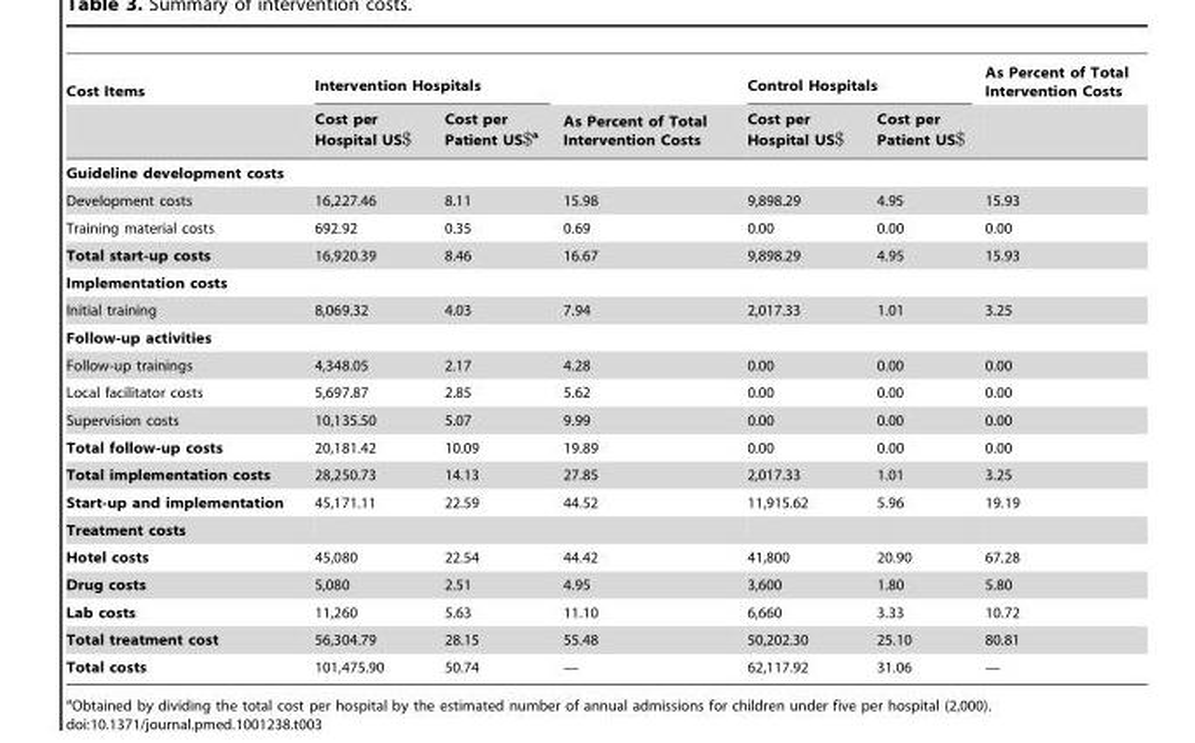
<table><thead><tr><td rowspan="2">Cost Items</td><td colspan="2">Intervention Hospitals</td><td rowspan="2">As Percent of Total Intervention Costs</td><td colspan="2">Control Hospitals</td><td rowspan="2">As Percent of Total Intervention Costs</td></tr><tr><td>Cost per Hospital US$</td><td>Cost per Patient US$<sup>a</sup></td><td>Cost per Hospital US$</td><td>Cost per Patient US$</td></tr></thead><tbody><tr><td colspan="7">Guideline development costs</td></tr><tr><td>Development costs</td><td>16,227.46</td><td>8.11</td><td>15.98</td><td>9,898.29</td><td>4.95</td><td>15.93</td></tr><tr><td>Training material costs</td><td>692.92</td><td>0.35</td><td>0.69</td><td>0.00</td><td>0.00</td><td>0.00</td></tr><tr><td>Total start-up costs</td><td>16,920.39</td><td>8.46</td><td>16.67</td><td>9,898.29</td><td>4.95</td><td>15.93</td></tr><tr><td colspan="7">Implementation costs</td></tr><tr><td>Initial training</td><td>8,069.32</td><td>4.03</td><td>7.94</td><td>2,017.33</td><td>1.01</td><td>3.25</td></tr><tr><td colspan="7">Follow-up activities</td></tr><tr><td>Follow-up trainings</td><td>4,348.05</td><td>2.17</td><td>4.28</td><td>0.00</td><td>0.00</td><td>0.00</td></tr><tr><td>Local facilitator costs</td><td>5,697.87</td><td>2.85</td><td>5.62</td><td>0.00</td><td>0.00</td><td>0.00</td></tr><tr><td>Supervision costs</td><td>10,135.50</td><td>5.07</td><td>9.99</td><td>0.00</td><td>0.00</td><td>0.00</td></tr><tr><td>Total follow-up costs</td><td>20,181.42</td><td>10.09</td><td>19.89</td><td>0.00</td><td>0.00</td><td>0.00</td></tr><tr><td>Total implementation costs</td><td>28,250.73</td><td>14.13</td><td>27.85</td><td>2,017.33</td><td>1.01</td><td>3.25</td></tr><tr><td>Start-up and implementation</td><td>45,171.11</td><td>22.59</td><td>44.52</td><td>11,915.62</td><td>5.96</td><td>19.19</td></tr><tr><td colspan="7">Treatment costs</td></tr><tr><td>Hotel costs</td><td>45,080</td><td>22.54</td><td>44.42</td><td>41,800</td><td>20.90</td><td>67.28</td></tr><tr><td>Drug costs</td><td>5,080</td><td>2.51</td><td>4.95</td><td>3,600</td><td>1.80</td><td>5.80</td></tr><tr><td>Lab costs</td><td>11,260</td><td>5.63</td><td>11.10</td><td>6,660</td><td>3.33</td><td>10.72</td></tr><tr><td>Total treatment cost</td><td>56,304.79</td><td>28.15</td><td>55.48</td><td>50,202.30</td><td>25.10</td><td>80.81</td></tr><tr><td>Total costs</td><td>101,475.90</td><td>50.74</td><td>—</td><td>62,117.92</td><td>31.06</td><td>—</td></tr></tbody></table>